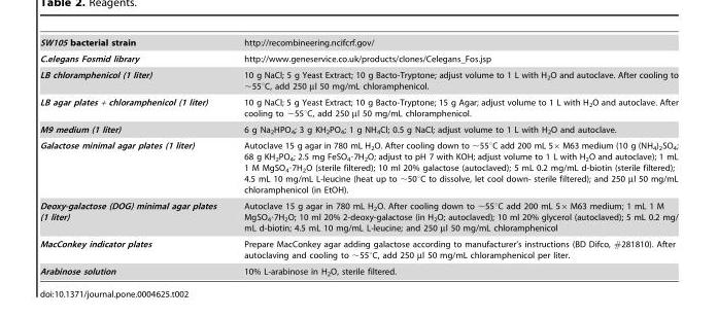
<table><tbody><tr><td>SW105 bacterial strain</td><td>http://recombineering.ncifcrf.gov/</td></tr><tr><td>C.elegans Fosmid library</td><td>http://www.geneservice.co.uk/products/clones/Celegans_Fos.jsp</td></tr><tr><td>LB chloramphenicol (1 liter)</td><td>10 g NaCl; 5 g Yeast Extract; 10 g Bacto-Tryptone; adjust volume to 1 L with H<sub>2</sub>O and autoclave. After cooling to ∼55°C, add 250 µl 50 mg/mL chloramphenicol.</td></tr><tr><td>LB agar plates + chloramphenicol (1 liter)</td><td>10 g NaCl; 5 g Yeast Extract; 10 g Bacto-Tryptone; 15 g Agar; adjust volume to 1 L with H<sub>2</sub>O and autoclave. After cooling to ∼55°C, add 250 µl 50 mg/mL chloramphenicol.</td></tr><tr><td>M9 medium (1 liter)</td><td>6 g Na<sub>2</sub>HPO<sub>4</sub>; 3 g KH<sub>2</sub>PO<sub>4</sub>; 1 g NH<sub>4</sub>Cl; 0.5 g NaCl; adjust volume to 1 L with H<sub>2</sub>O and autoclave.</td></tr><tr><td>Galactose minimal agar plates (1 liter)</td><td>Autoclave 15 g agar in 780 mL H<sub>2</sub>O. After cooling down to ∼55°C add 200 mL 5×M63 medium (10 g (NH<sub>4</sub>)<sub>2</sub>SO<sub>4</sub>; 68 g KH<sub>2</sub>PO<sub>4</sub>; 2.5 mg FeSO<sub>4</sub>·7H<sub>2</sub>O; adjust to pH 7 with KOH; adjust volume to 1 L with H<sub>2</sub>O and autoclave); 1 mL 1 M MgSO<sub>4</sub>·7H<sub>2</sub>O (sterile filtered); 10 ml 20% galactose (autoclaved); 5 mL 0.2 mg/mL d-biotin (sterile filtered); 4.5 mL 10 mg/mL L-leucine (heat up to ∼50°C to dissolve, let cool down- sterile filtered); and 250 µl 50 mg/mL chloramphenicol (in EtOH).</td></tr><tr><td>Deoxy-galactose (DOG) minimal agar plates (1 liter)</td><td>Autoclave 15 g agar in 780 mL H<sub>2</sub>O. After cooling down to ∼55°C add 200 mL 5× M63 medium; 1 mL 1 M MgSO<sub>4</sub>·7H<sub>2</sub>O; 10 ml 20% 2-deoxy-galactose (in H<sub>2</sub>O; autoclaved); 10 ml 20% glycerol (autoclaved); 5 mL 0.2 mg/ mL d-biotin; 4.5 mL 10 mg/mL L-leucine; and 250 µl 50 mg/mL chloramphenicol</td></tr><tr><td>MacConkey indicator plates</td><td>Prepare MacConkey agar adding galactose according to manufacturer’s instructions (BD Difco, #281810). After autoclaving and cooling to ∼55°C, add 250 µl 50 mg/mL chloramphenicol per liter.</td></tr><tr><td>Arabinose solution</td><td>10% L-arabinose in H<sub>2</sub>O, sterile filtered.</td></tr></tbody></table>